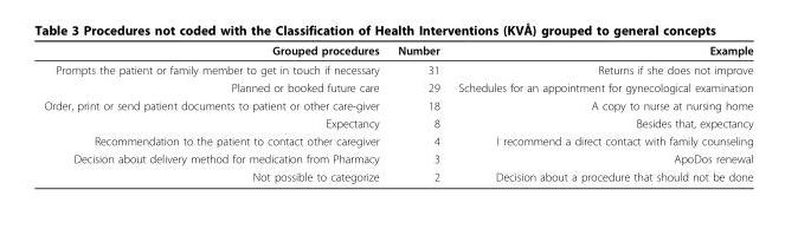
<table><thead><tr><td>Grouped procedures</td><td>Number</td><td>Example</td></tr></thead><tbody><tr><td>Prompts the patient or family member to get in touch if necessary</td><td>31</td><td>Returns if she does not improve</td></tr><tr><td>Planned or booked future care</td><td>29</td><td>Schedules for an appointment for gynecological examination</td></tr><tr><td>Order, print or send patient documents to patient or other care-giver</td><td>18</td><td>A copy to nurse at nursing home</td></tr><tr><td>Expectancy</td><td>8</td><td>Besides that, expectancy</td></tr><tr><td>Recommendation to the patient to contact other caregiver</td><td>4</td><td>I recommend a direct contact with family counseling</td></tr><tr><td>Decision about delivery method for medication from Pharmacy</td><td>3</td><td>ApoDos renewal</td></tr><tr><td>Not possible to categorize</td><td>2</td><td>Decision about a procedure that should not be done</td></tr></tbody></table>